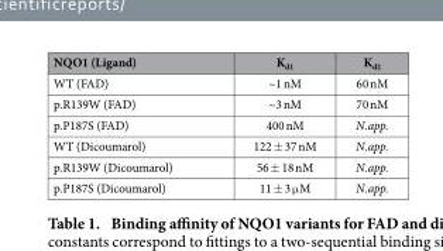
<table><thead><tr><td>NQO1 (Ligand)</td><td>K<sub>d1</sub></td><td>K<sub>d2</sub></td></tr></thead><tbody><tr><td>WT (FAD)</td><td>~1 nM</td><td>60 nM</td></tr><tr><td>p.R139W (FAD)</td><td>~3 nM</td><td>70 nM</td></tr><tr><td>p.P187S (FAD)</td><td>400 nM</td><td>N.app.</td></tr><tr><td>WT (Dicoumarol)</td><td>122 ± 37 nM</td><td>N.app.</td></tr><tr><td>p.R139W (Dicoumarol)</td><td>56 ± 18 nM</td><td>N.app.</td></tr><tr><td>p.P187S (Dicoumarol)</td><td>11 ± 3 μ M</td><td>N.app.</td></tr></tbody></table>